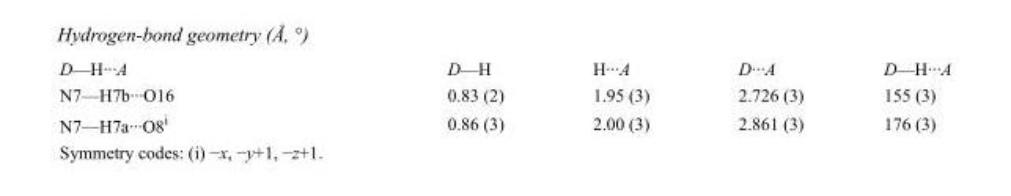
<table><tbody><tr><td>D—H···A</td><td>D—H</td><td>H···A</td><td>D···A</td><td>D—H···A</td></tr><tr><td>N7—H7b···O16</td><td>0.83 (2)</td><td>1.95 (3)</td><td>2.726 (3)</td><td>155 (3)</td></tr><tr><td>N7—H7a···O8<sup>i</sup></td><td>0.86 (3)</td><td>2.00 (3)</td><td>2.861 (3)</td><td>176 (3)</td></tr></tbody></table>